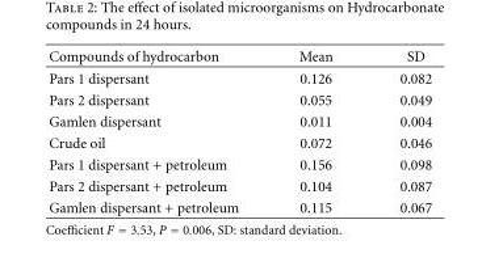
<table><thead><tr><td>Compounds of hydrocarbon</td><td>Mean</td><td>SD</td></tr></thead><tbody><tr><td>Pars 1 dispersant</td><td>0.126</td><td>0.082</td></tr><tr><td>Pars 2 dispersant</td><td>0.055</td><td>0.049</td></tr><tr><td>Gamlen dispersant</td><td>0.011</td><td>0.004</td></tr><tr><td>Crude oil</td><td>0.072</td><td>0.046</td></tr><tr><td>Pars 1 dispersant + petroleum</td><td>0.156</td><td>0.098</td></tr><tr><td>Pars 2 dispersant + petroleum</td><td>0.104</td><td>0.087</td></tr><tr><td>Gamlen dispersant + petroleum</td><td>0.115</td><td>0.067</td></tr></tbody></table>